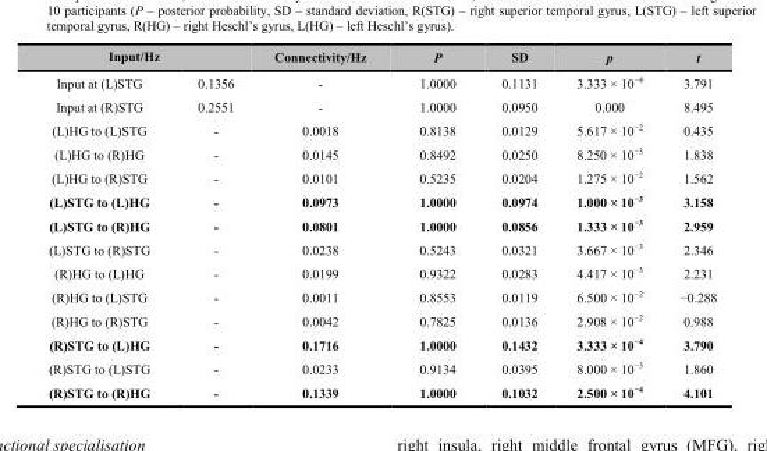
<table><thead><tr><td colspan="2">Input/Hz</td><td rowspan="2">Connectivity/Hz -</td><td rowspan="2">P 1.0000</td><td rowspan="2">SD 0.1131</td><td rowspan="2">p 3.333 × 10−4</td><td rowspan="2">t 3.791</td></tr><tr><td>Input at (L)STG</td><td>0.1356</td></tr></thead><tbody><tr><td>Input at (R)STG</td><td>0.2551</td><td>-</td><td>1.0000</td><td>0.0950</td><td>0.000</td><td>8.495</td></tr><tr><td>(L)HG to (L)STG</td><td>-</td><td>0.0018</td><td>0.8138</td><td>0.0129</td><td>5.617 × 10<sup>−2</sup></td><td>0.435</td></tr><tr><td>(L)HG to (R)HG</td><td>-</td><td>0.0145</td><td>0.8492</td><td>0.0250</td><td>8.250 × 10<sup>−3</sup></td><td>1.838</td></tr><tr><td>(L)HG to (R)STG</td><td>-</td><td>0.0101</td><td>0.5235</td><td>0.0204</td><td>1.275 × 10<sup>−2</sup></td><td>1.562</td></tr><tr><td>(L)STG to (L)HG</td><td>-</td><td>0.0973</td><td>1.0000</td><td>0.0974</td><td>1.000 × 10<sup>−3</sup></td><td>3.158</td></tr><tr><td>(L)STG to (R)HG</td><td>-</td><td>0.0801</td><td>1.0000</td><td>0.0856</td><td>1.333 × 10<sup>−3</sup></td><td>2.959</td></tr><tr><td>(L)STG to (R)STG</td><td>-</td><td>0.0238</td><td>0.5243</td><td>0.0321</td><td>3.667 × 10<sup>−3</sup></td><td>2.346</td></tr><tr><td>(R)HG to (L)HG</td><td>-</td><td>0.0199</td><td>0.9322</td><td>0.0283</td><td>4.417 × 10<sup>−3</sup></td><td>2.231</td></tr><tr><td>(R)HG to (L)STG</td><td>-</td><td>0.0011</td><td>0.8553</td><td>0.0119</td><td>6.500 × 10<sup>−2</sup></td><td>−0.288</td></tr><tr><td>(R)HG to (R)STG</td><td>-</td><td>0.0042</td><td>0.7825</td><td>0.0136</td><td>2.908 × 10<sup>−2</sup></td><td>0.988</td></tr><tr><td>(R)STG to (L)HG</td><td>-</td><td>0.1716</td><td>1.0000</td><td>0.1432</td><td>3.333 × 10−4</td><td>3.790</td></tr><tr><td>(R)STG to (L)STG</td><td>-</td><td>0.0233</td><td>0.9134</td><td>0.0395</td><td>8.000 × 10<sup>−3</sup></td><td>1.860</td></tr><tr><td>(R)STG to (R)HG</td><td>-</td><td>0.1339</td><td>1.0000</td><td>0.1032</td><td>2.500 × 10<sup>−4</sup></td><td>4.101</td></tr></tbody></table>